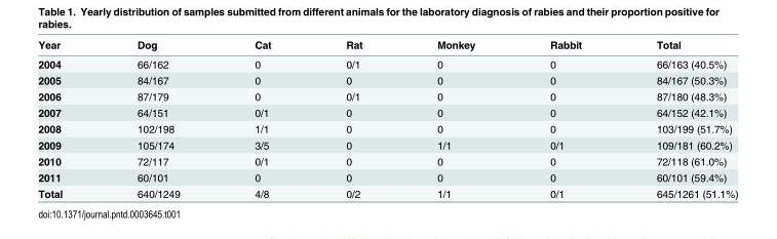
<table><thead><tr><td>Year</td><td>Dog</td><td>Cat</td><td>Rat</td><td>Monkey</td><td>Rabbit</td><td>Total</td></tr></thead><tbody><tr><td>2004</td><td>66/162</td><td>0</td><td>0/1</td><td>0</td><td>0</td><td>66/163 (40.5%)</td></tr><tr><td>2005</td><td>84/167</td><td>0</td><td>0</td><td>0</td><td>0</td><td>84/167 (50.3%)</td></tr><tr><td>2006</td><td>87/179</td><td>0</td><td>0/1</td><td>0</td><td>0</td><td>87/180 (48.3%)</td></tr><tr><td>2007</td><td>64/151</td><td>0/1</td><td>0</td><td>0</td><td>0</td><td>64/152 (42.1%)</td></tr><tr><td>2008</td><td>102/198</td><td>1/1</td><td>0</td><td>0</td><td>0</td><td>103/199 (51.7%)</td></tr><tr><td>2009</td><td>105/174</td><td>3/5</td><td>0</td><td>1/1</td><td>0/1</td><td>109/181 (60.2%)</td></tr><tr><td>2010</td><td>72/117</td><td>0/1</td><td>0</td><td>0</td><td>0</td><td>72/118 (61.0%)</td></tr><tr><td>2011</td><td>60/101</td><td>0</td><td>0</td><td>0</td><td>0</td><td>60/101 (59.4%)</td></tr><tr><td>Total</td><td>640/1249</td><td>4/8</td><td>0/2</td><td>1/1</td><td>0/1</td><td>645/1261 (51.1%)</td></tr></tbody></table>